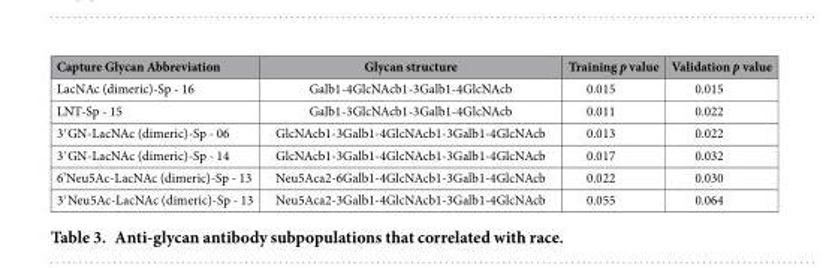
<table><thead><tr><td>Capture Glycan Abbreviation</td><td>Glycan structure</td><td>Training p value</td><td>Validation p value</td></tr></thead><tbody><tr><td>LacNAc (dimeric)-Sp - 16</td><td>Galb1-4GlcNAcb1-3Galb1-4GlcNAcb</td><td>0.015</td><td>0.015</td></tr><tr><td>LNT-Sp - 15</td><td>Galb1-3GlcNAcb1-3Galb1-4GlcNAcb</td><td>0.011</td><td>0.022</td></tr><tr><td>3′ GN-LacNAc (dimeric)-Sp - 06</td><td>GlcNAcb1-3Galb1-4GlcNAcb1-3Galb1-4GlcNAcb</td><td>0.013</td><td>0.022</td></tr><tr><td>3′ GN-LacNAc (dimeric)-Sp - 14</td><td>GlcNAcb1-3Galb1-4GlcNAcb1-3Galb1-4GlcNAcb</td><td>0.017</td><td>0.032</td></tr><tr><td>6’Neu5Ac-LacNAc (dimeric)-Sp - 13</td><td>Neu5Aca2-6Galb1-4GlcNAcb1-3Galb1-4GlcNAcb</td><td>0.022</td><td>0.030</td></tr><tr><td>3′ Neu5Ac-LacNAc (dimeric)-Sp - 13</td><td>Neu5Aca2-3Galb1-4GlcNAcb1-3Galb1-4GlcNAcb</td><td>0.055</td><td>0.064</td></tr></tbody></table>